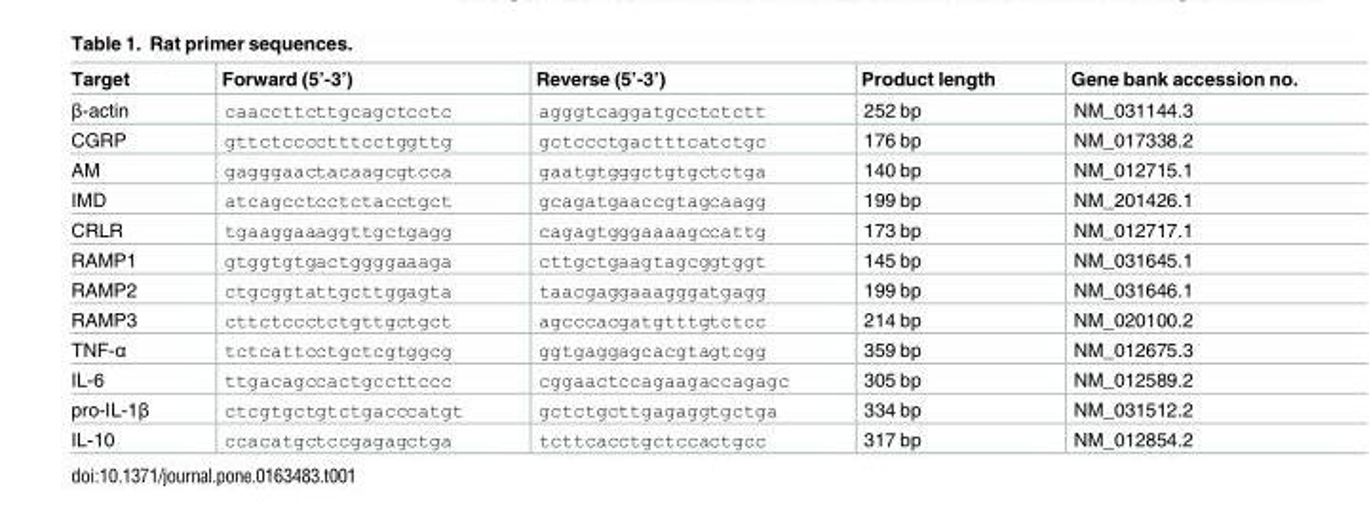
<table><thead><tr><td>Target</td><td>Forward (5’-3’)</td><td>Reverse (5’-3’)</td><td>Product length</td><td>Gene bank accession no.</td></tr></thead><tbody><tr><td>β-actin</td><td>caaccttcttgcagctcctc</td><td>agggtcaggatgcctctctt</td><td>252 bp</td><td>NM_031144.3</td></tr><tr><td>CGRP</td><td>gttctcccctttcctggttg</td><td>gctccctgactttcatctgc</td><td>176 bp</td><td>NM_017338.2</td></tr><tr><td>AM</td><td>gagggaactacaagcgtcca</td><td>gaatgtgggctgtgctctga</td><td>140 bp</td><td>NM_012715.1</td></tr><tr><td>IMD</td><td>atcagcctcctctacctgct</td><td>gcagatgaaccgtagcaagg</td><td>199 bp</td><td>NM_201426.1</td></tr><tr><td>CRLR</td><td>tgaaggaaaggttgctgagg</td><td>cagagtgggaaaagccattg</td><td>173 bp</td><td>NM_012717.1</td></tr><tr><td>RAMP1</td><td>gtggtgtgactggggaaaga</td><td>cttgctgaagtagcggtggt</td><td>145 bp</td><td>NM_031645.1</td></tr><tr><td>RAMP2</td><td>ctgcggtattgcttggagta</td><td>taacgaggaaagggatgagg</td><td>199 bp</td><td>NM_031646.1</td></tr><tr><td>RAMP3</td><td>cttctccctctgttgctgct</td><td>agcccacgatgtttgtctcc</td><td>214 bp</td><td>NM_020100.2</td></tr><tr><td>TNF-α</td><td>tctcattcctgctcgtggcg</td><td>ggtgaggagcacgtagtcgg</td><td>359 bp</td><td>NM_012675.3</td></tr><tr><td>IL-6</td><td>ttgacagccactgccttccc</td><td>cggaactccagaagaccagagc</td><td>305 bp</td><td>NM_012589.2</td></tr><tr><td>pro-IL-1β</td><td>ctcgtgctgtctgacccatgt</td><td>gctctgcttgagaggtgctga</td><td>334 bp</td><td>NM_031512.2</td></tr><tr><td>IL-10</td><td>ccacatgctccgagagctga</td><td>tcttcacctgctccactgcc</td><td>317 bp</td><td>NM_012854.2</td></tr></tbody></table>